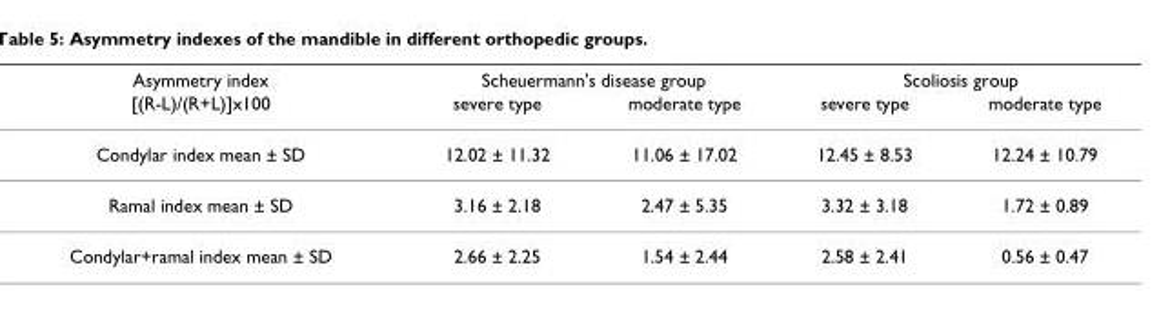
<table><thead><tr><td rowspan="2">Asymmetry index [(R-L)/(R+L)]x100</td><td colspan="2">Scheuermann&#x27;s disease group</td><td colspan="2">Scoliosis group</td></tr><tr><td>severe type</td><td>moderate type</td><td>severe type</td><td>moderate type</td></tr></thead><tbody><tr><td>Condylar index mean ± SD</td><td>12.02 ± 11.32</td><td>11.06 ± 17.02</td><td>12.45 ± 8.53</td><td>12.24 ± 10.79</td></tr><tr><td>Ramal index mean ± SD</td><td>3.16 ± 2.18</td><td>2.47 ± 5.35</td><td>3.32 ± 3.18</td><td>1.72 ± 0.89</td></tr><tr><td>Condylar+ramal index mean ± SD</td><td>2.66 ± 2.25</td><td>1.54 ± 2.44</td><td>2.58 ± 2.41</td><td>0.56 ± 0.47</td></tr></tbody></table>